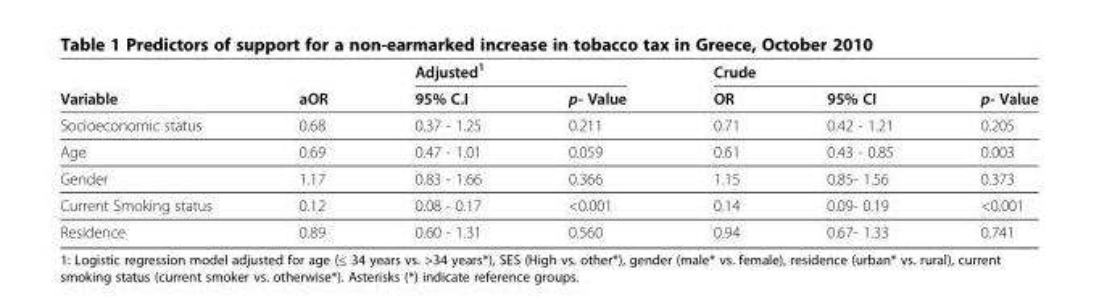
<table><thead><tr><td rowspan="2">Variable</td><td rowspan="2">aOR</td><td colspan="2">Adjusted<sup>1</sup></td><td colspan="3">Crude</td></tr><tr><td>95% C.I</td><td>p- Value</td><td>OR</td><td>95% CI</td><td>p- Value</td></tr></thead><tbody><tr><td>Socioeconomic status</td><td>0.68</td><td>0.37 - 1.25</td><td>0.211</td><td>0.71</td><td>0.42 - 1.21</td><td>0.205</td></tr><tr><td>Age</td><td>0.69</td><td>0.47 - 1.01</td><td>0.059</td><td>0.61</td><td>0.43 - 0.85</td><td>0.003</td></tr><tr><td>Gender</td><td>1.17</td><td>0.83 - 1.66</td><td>0.366</td><td>1.15</td><td>0.85- 1.56</td><td>0.373</td></tr><tr><td>Current Smoking status</td><td>0.12</td><td>0.08 - 0.17</td><td>&lt;0.001</td><td>0.14</td><td>0.09- 0.19</td><td>&lt;0.001</td></tr><tr><td>Residence</td><td>0.89</td><td>0.60 - 1.31</td><td>0.560</td><td>0.94</td><td>0.67- 1.33</td><td>0.741</td></tr></tbody></table>